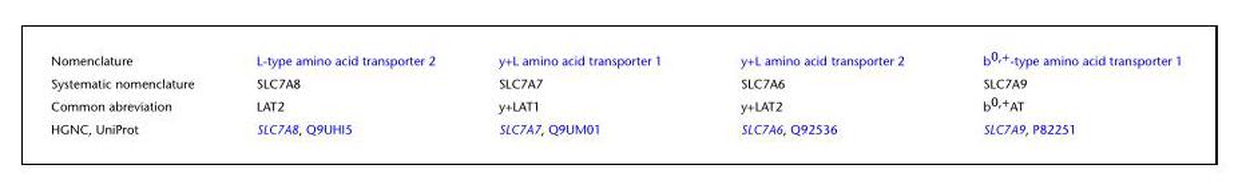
<table><tbody><tr><td>Nomenclature</td><td>L-type amino acid transporter 2</td><td>y+L amino acid transporter 1</td><td>y+L amino acid transporter 2</td><td>b<sup>0,+</sup>-type amino acid transporter 1</td></tr><tr><td>Systematic nomenclature</td><td>SLC7A8</td><td>SLC7A7</td><td>SLC7A6</td><td>SLC7A9</td></tr><tr><td>Common abreviation</td><td>LAT2</td><td>y+LAT1</td><td>y+LAT2</td><td>b<sup>0,+</sup>AT</td></tr><tr><td>HGNC, UniProt</td><td>SLC7A8, Q9UHI5</td><td>SLC7A7, Q9UM01</td><td>SLC7A6, Q92536</td><td>SLC7A9, P82251</td></tr></tbody></table>